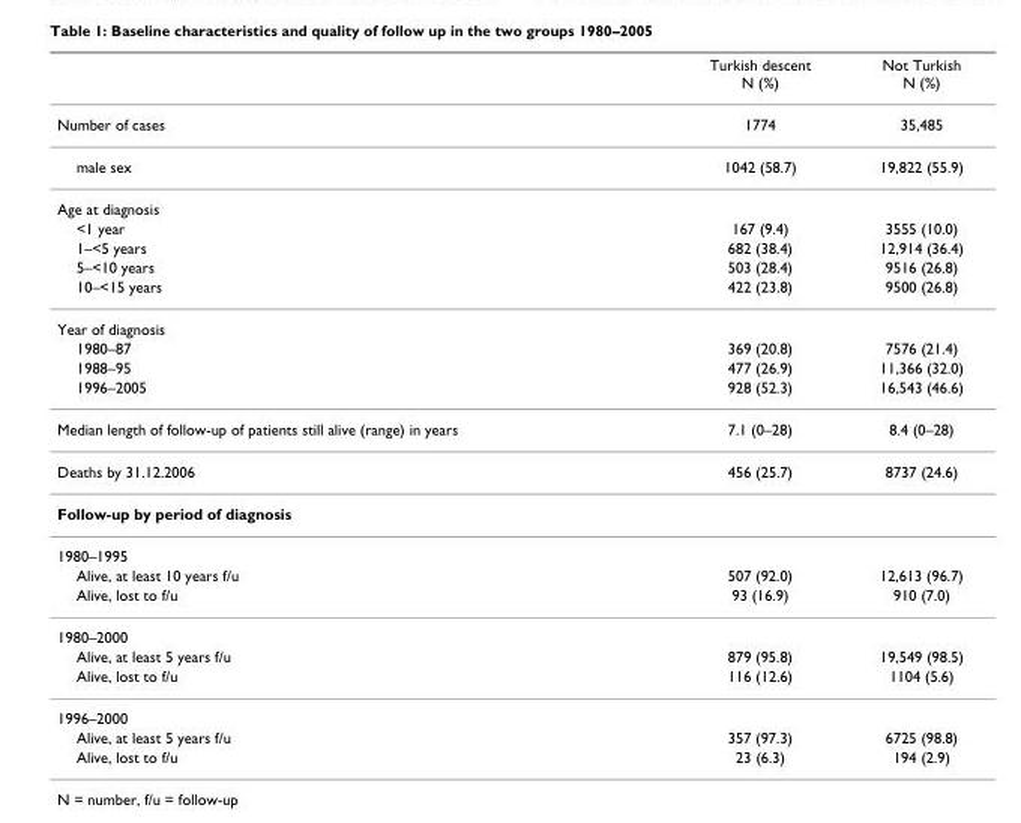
<table><thead><tr><td></td><td>Turkish descent N (%)</td><td>Not Turkish N (%)</td></tr></thead><tbody><tr><td>Number of cases</td><td>1774</td><td>35,485</td></tr><tr><td>male sex</td><td>1042 (58.7)</td><td>19,822 (55.9)</td></tr><tr><td colspan="3">Age at diagnosis</td></tr><tr><td>&lt;1 year</td><td>167 (9.4)</td><td>3555 (10.0)</td></tr><tr><td>1–&lt;5 years</td><td>682 (38.4)</td><td>12,914 (36.4)</td></tr><tr><td>5–&lt;10 years</td><td>503 (28.4)</td><td>9516 (26.8)</td></tr><tr><td>10–&lt;15 years</td><td>422 (23.8)</td><td>9500 (26.8)</td></tr><tr><td colspan="3">Year of diagnosis</td></tr><tr><td>1980–87</td><td>369 (20.8)</td><td>7576 (21.4)</td></tr><tr><td>1988–95</td><td>477 (26.9)</td><td>11,366 (32.0)</td></tr><tr><td>1996–2005</td><td>928 (52.3)</td><td>16,543 (46.6)</td></tr><tr><td>Median length of follow-up of patients still alive (range) in years</td><td>7.1 (0–28)</td><td>8.4 (0–28)</td></tr><tr><td>Deaths by 31.12.2006</td><td>456 (25.7)</td><td>8737 (24.6)</td></tr><tr><td colspan="3">Follow-up by period of diagnosis</td></tr><tr><td colspan="3">1980–1995</td></tr><tr><td>Alive, at least 10 years f/u</td><td>507 (92.0)</td><td>12,613 (96.7)</td></tr><tr><td>Alive, lost to f/u</td><td>93 (16.9)</td><td>910 (7.0)</td></tr><tr><td colspan="3">1980–2000</td></tr><tr><td>Alive, at least 5 years f/u</td><td>879 (95.8)</td><td>19,549 (98.5)</td></tr><tr><td>Alive, lost to f/u</td><td>116 (12.6)</td><td>1104 (5.6)</td></tr><tr><td colspan="3">1996–2000</td></tr><tr><td>Alive, at least 5 years f/u</td><td>357 (97.3)</td><td>6725 (98.8)</td></tr><tr><td>Alive, lost to f/u</td><td>23 (6.3)</td><td>194 (2.9)</td></tr></tbody></table>